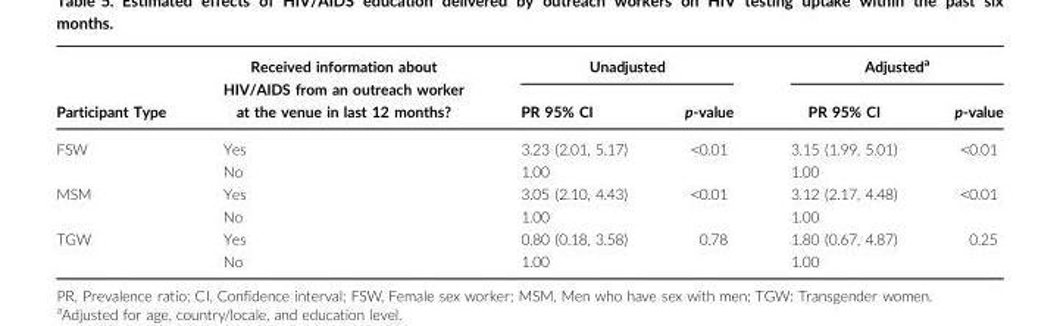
<table><thead><tr><td rowspan="2">Participant Type</td><td rowspan="2">Received information about HIV/AIDS from an outreach worker at the venue in last 12 months?</td><td colspan="2">Unadjusted</td><td colspan="2">Adjusted<sup>a</sup></td></tr><tr><td>PR 95% CI</td><td>p-value</td><td>PR 95% CI</td><td>p-value</td></tr></thead><tbody><tr><td rowspan="2">FSW</td><td>Yes</td><td>3.23 (2.01, 5.17)</td><td>&lt;0.01</td><td>3.15 (1.99, 5.01)</td><td>&lt;0.01</td></tr><tr><td>No</td><td>1.00</td><td></td><td>1.00</td><td></td></tr><tr><td rowspan="2">MSM</td><td>Yes</td><td>3.05 (2.10, 4.43)</td><td>&lt;0.01</td><td>3.12 (2.17, 4.48)</td><td>&lt;0.01</td></tr><tr><td>No</td><td>1.00</td><td></td><td>1.00</td><td></td></tr><tr><td rowspan="2">TGW</td><td>Yes</td><td>0.80 (0.18, 3.58)</td><td>0.78</td><td>1.80 (0.67, 4.87)</td><td>0.25</td></tr><tr><td>No</td><td>1.00</td><td></td><td>1.00</td><td></td></tr></tbody></table>